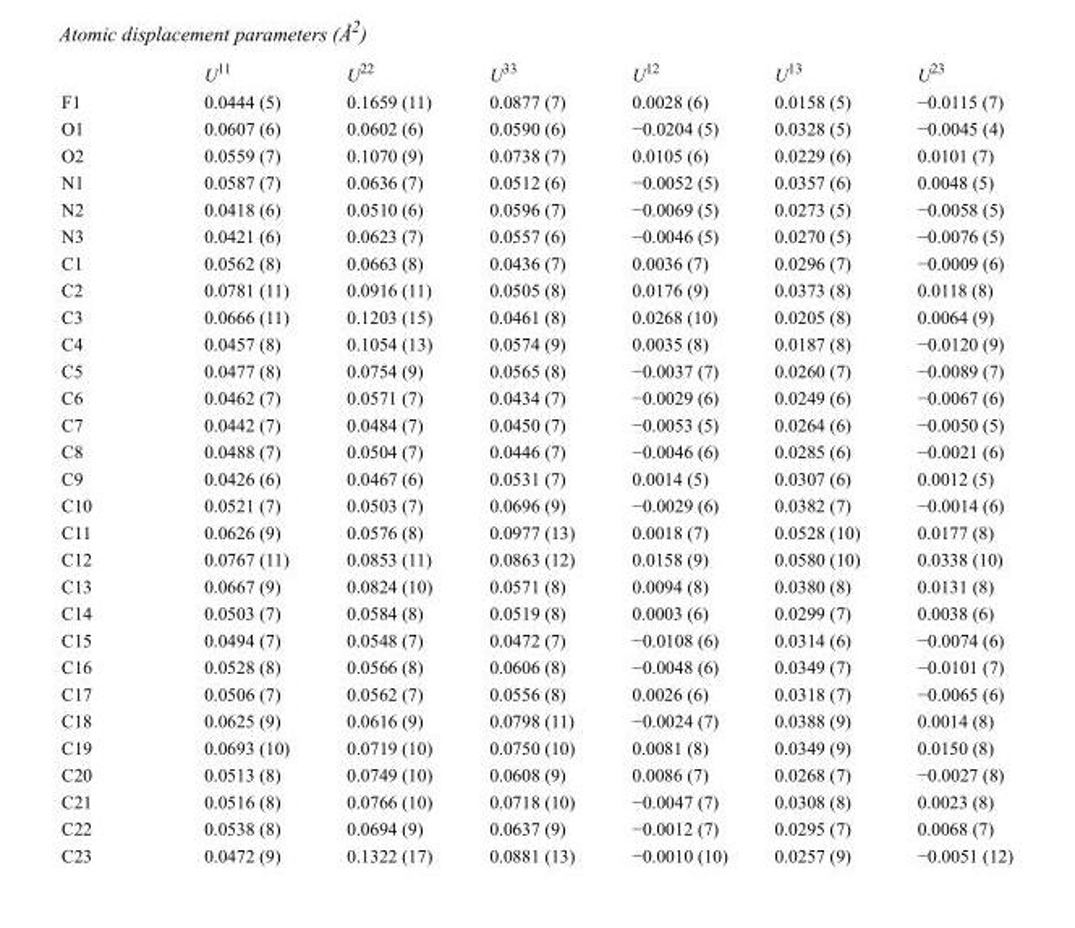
<table><thead><tr><td></td><td>U<sup>11</sup></td><td>U<sup>22</sup></td><td>U<sup>33</sup></td><td>U<sup>12</sup></td><td>U<sup>13</sup></td><td>U<sup>23</sup></td></tr></thead><tbody><tr><td>F1</td><td>0.0444 (5)</td><td>0.1659 (11)</td><td>0.0877 (7)</td><td>0.0028 (6)</td><td>0.0158 (5)</td><td>−0.0115 (7)</td></tr><tr><td>O1</td><td>0.0607 (6)</td><td>0.0602 (6)</td><td>0.0590 (6)</td><td>−0.0204 (5)</td><td>0.0328 (5)</td><td>−0.0045 (4)</td></tr><tr><td>O2</td><td>0.0559 (7)</td><td>0.1070 (9)</td><td>0.0738 (7)</td><td>0.0105 (6)</td><td>0.0229 (6)</td><td>0.0101 (7)</td></tr><tr><td>N1</td><td>0.0587 (7)</td><td>0.0636 (7)</td><td>0.0512 (6)</td><td>−0.0052 (5)</td><td>0.0357 (6)</td><td>0.0048 (5)</td></tr><tr><td>N2</td><td>0.0418 (6)</td><td>0.0510 (6)</td><td>0.0596 (7)</td><td>−0.0069 (5)</td><td>0.0273 (5)</td><td>−0.0058 (5)</td></tr><tr><td>N3</td><td>0.0421 (6)</td><td>0.0623 (7)</td><td>0.0557 (6)</td><td>−0.0046 (5)</td><td>0.0270 (5)</td><td>−0.0076 (5)</td></tr><tr><td>C1</td><td>0.0562 (8)</td><td>0.0663 (8)</td><td>0.0436 (7)</td><td>0.0036 (7)</td><td>0.0296 (7)</td><td>−0.0009 (6)</td></tr><tr><td>C2</td><td>0.0781 (11)</td><td>0.0916 (11)</td><td>0.0505 (8)</td><td>0.0176 (9)</td><td>0.0373 (8)</td><td>0.0118 (8)</td></tr><tr><td>C3</td><td>0.0666 (11)</td><td>0.1203 (15)</td><td>0.0461 (8)</td><td>0.0268 (10)</td><td>0.0205 (8)</td><td>0.0064 (9)</td></tr><tr><td>C4</td><td>0.0457 (8)</td><td>0.1054 (13)</td><td>0.0574 (9)</td><td>0.0035 (8)</td><td>0.0187 (8)</td><td>−0.0120 (9)</td></tr><tr><td>C5</td><td>0.0477 (8)</td><td>0.0754 (9)</td><td>0.0565 (8)</td><td>−0.0037 (7)</td><td>0.0260 (7)</td><td>−0.0089 (7)</td></tr><tr><td>C6</td><td>0.0462 (7)</td><td>0.0571 (7)</td><td>0.0434 (7)</td><td>−0.0029 (6)</td><td>0.0249 (6)</td><td>−0.0067 (6)</td></tr><tr><td>C7</td><td>0.0442 (7)</td><td>0.0484 (7)</td><td>0.0450 (7)</td><td>−0.0053 (5)</td><td>0.0264 (6)</td><td>−0.0050 (5)</td></tr><tr><td>C8</td><td>0.0488 (7)</td><td>0.0504 (7)</td><td>0.0446 (7)</td><td>−0.0046 (6)</td><td>0.0285 (6)</td><td>−0.0021 (6)</td></tr><tr><td>C9</td><td>0.0426 (6)</td><td>0.0467 (6)</td><td>0.0531 (7)</td><td>0.0014 (5)</td><td>0.0307 (6)</td><td>0.0012 (5)</td></tr><tr><td>C10</td><td>0.0521 (7)</td><td>0.0503 (7)</td><td>0.0696 (9)</td><td>−0.0029 (6)</td><td>0.0382 (7)</td><td>−0.0014 (6)</td></tr><tr><td>C11</td><td>0.0626 (9)</td><td>0.0576 (8)</td><td>0.0977 (13)</td><td>0.0018 (7)</td><td>0.0528 (10)</td><td>0.0177 (8)</td></tr><tr><td>C12</td><td>0.0767 (11)</td><td>0.0853 (11)</td><td>0.0863 (12)</td><td>0.0158 (9)</td><td>0.0580 (10)</td><td>0.0338 (10)</td></tr><tr><td>C13</td><td>0.0667 (9)</td><td>0.0824 (10)</td><td>0.0571 (8)</td><td>0.0094 (8)</td><td>0.0380 (8)</td><td>0.0131 (8)</td></tr><tr><td>C14</td><td>0.0503 (7)</td><td>0.0584 (8)</td><td>0.0519 (8)</td><td>0.0003 (6)</td><td>0.0299 (7)</td><td>0.0038 (6)</td></tr><tr><td>C15</td><td>0.0494 (7)</td><td>0.0548 (7)</td><td>0.0472 (7)</td><td>−0.0108 (6)</td><td>0.0314 (6)</td><td>−0.0074 (6)</td></tr><tr><td>C16</td><td>0.0528 (8)</td><td>0.0566 (8)</td><td>0.0606 (8)</td><td>−0.0048 (6)</td><td>0.0349 (7)</td><td>−0.0101 (7)</td></tr><tr><td>C17</td><td>0.0506 (7)</td><td>0.0562 (7)</td><td>0.0556 (8)</td><td>0.0026 (6)</td><td>0.0318 (7)</td><td>−0.0065 (6)</td></tr><tr><td>C18</td><td>0.0625 (9)</td><td>0.0616 (9)</td><td>0.0798 (11)</td><td>−0.0024 (7)</td><td>0.0388 (9)</td><td>0.0014 (8)</td></tr><tr><td>C19</td><td>0.0693 (10)</td><td>0.0719 (10)</td><td>0.0750 (10)</td><td>0.0081 (8)</td><td>0.0349 (9)</td><td>0.0150 (8)</td></tr><tr><td>C20</td><td>0.0513 (8)</td><td>0.0749 (10)</td><td>0.0608 (9)</td><td>0.0086 (7)</td><td>0.0268 (7)</td><td>−0.0027 (8)</td></tr><tr><td>C21</td><td>0.0516 (8)</td><td>0.0766 (10)</td><td>0.0718 (10)</td><td>−0.0047 (7)</td><td>0.0308 (8)</td><td>0.0023 (8)</td></tr><tr><td>C22</td><td>0.0538 (8)</td><td>0.0694 (9)</td><td>0.0637 (9)</td><td>−0.0012 (7)</td><td>0.0295 (7)</td><td>0.0068 (7)</td></tr><tr><td>C23</td><td>0.0472 (9)</td><td>0.1322 (17)</td><td>0.0881 (13)</td><td>−0.0010 (10)</td><td>0.0257 (9)</td><td>−0.0051 (12)</td></tr></tbody></table>